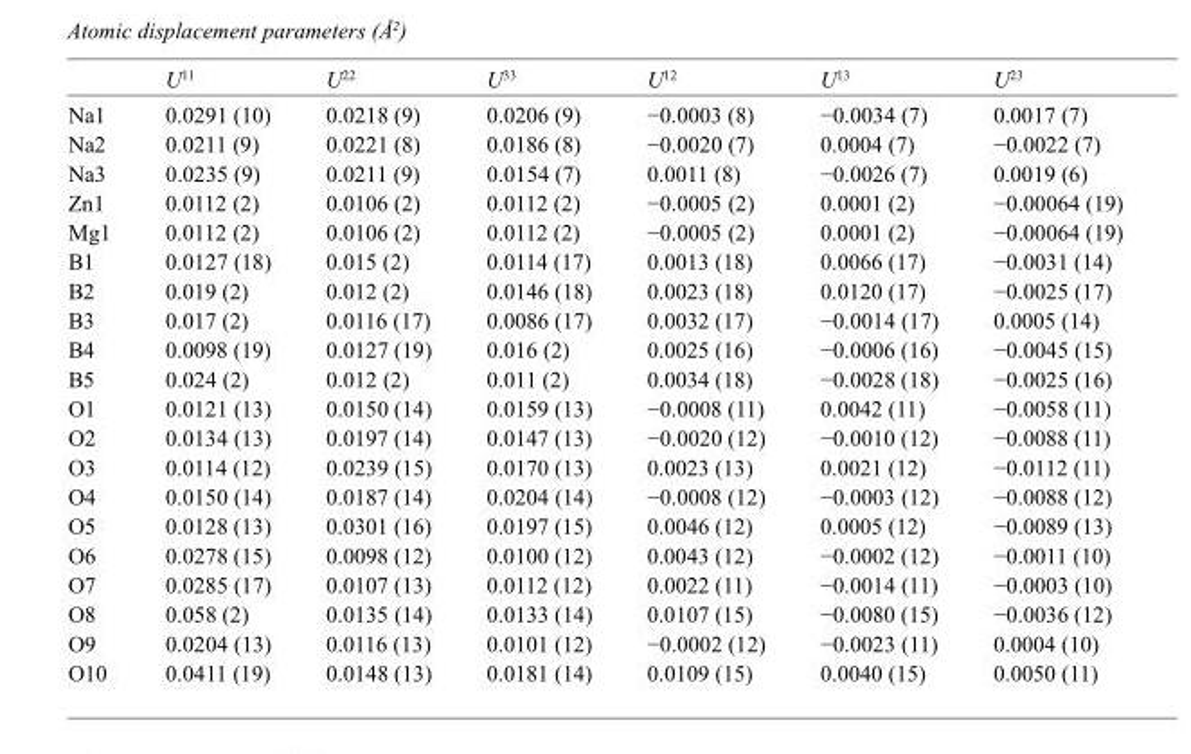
<table><thead><tr><td></td><td>U<sup>11</sup></td><td>U<sup>22</sup></td><td>U<sup>33</sup></td><td>U<sup>12</sup></td><td>U<sup>13</sup></td><td>U<sup>23</sup></td></tr></thead><tbody><tr><td>Na1</td><td>0.0291 (10)</td><td>0.0218 (9)</td><td>0.0206 (9)</td><td>−0.0003 (8)</td><td>−0.0034 (7)</td><td>0.0017 (7)</td></tr><tr><td>Na2</td><td>0.0211 (9)</td><td>0.0221 (8)</td><td>0.0186 (8)</td><td>−0.0020 (7)</td><td>0.0004 (7)</td><td>−0.0022 (7)</td></tr><tr><td>Na3</td><td>0.0235 (9)</td><td>0.0211 (9)</td><td>0.0154 (7)</td><td>0.0011 (8)</td><td>−0.0026 (7)</td><td>0.0019 (6)</td></tr><tr><td>Zn1</td><td>0.0112 (2)</td><td>0.0106 (2)</td><td>0.0112 (2)</td><td>−0.0005 (2)</td><td>0.0001 (2)</td><td>−0.00064 (19)</td></tr><tr><td>Mg1</td><td>0.0112 (2)</td><td>0.0106 (2)</td><td>0.0112 (2)</td><td>−0.0005 (2)</td><td>0.0001 (2)</td><td>−0.00064 (19)</td></tr><tr><td>B1</td><td>0.0127 (18)</td><td>0.015 (2)</td><td>0.0114 (17)</td><td>0.0013 (18)</td><td>0.0066 (17)</td><td>−0.0031 (14)</td></tr><tr><td>B2</td><td>0.019 (2)</td><td>0.012 (2)</td><td>0.0146 (18)</td><td>0.0023 (18)</td><td>0.0120 (17)</td><td>−0.0025 (17)</td></tr><tr><td>B3</td><td>0.017 (2)</td><td>0.0116 (17)</td><td>0.0086 (17)</td><td>0.0032 (17)</td><td>−0.0014 (17)</td><td>0.0005 (14)</td></tr><tr><td>B4</td><td>0.0098 (19)</td><td>0.0127 (19)</td><td>0.016 (2)</td><td>0.0025 (16)</td><td>−0.0006 (16)</td><td>−0.0045 (15)</td></tr><tr><td>B5</td><td>0.024 (2)</td><td>0.012 (2)</td><td>0.011 (2)</td><td>0.0034 (18)</td><td>−0.0028 (18)</td><td>−0.0025 (16)</td></tr><tr><td>O1</td><td>0.0121 (13)</td><td>0.0150 (14)</td><td>0.0159 (13)</td><td>−0.0008 (11)</td><td>0.0042 (11)</td><td>−0.0058 (11)</td></tr><tr><td>O2</td><td>0.0134 (13)</td><td>0.0197 (14)</td><td>0.0147 (13)</td><td>−0.0020 (12)</td><td>−0.0010 (12)</td><td>−0.0088 (11)</td></tr><tr><td>O3</td><td>0.0114 (12)</td><td>0.0239 (15)</td><td>0.0170 (13)</td><td>0.0023 (13)</td><td>0.0021 (12)</td><td>−0.0112 (11)</td></tr><tr><td>O4</td><td>0.0150 (14)</td><td>0.0187 (14)</td><td>0.0204 (14)</td><td>−0.0008 (12)</td><td>−0.0003 (12)</td><td>−0.0088 (12)</td></tr><tr><td>O5</td><td>0.0128 (13)</td><td>0.0301 (16)</td><td>0.0197 (15)</td><td>0.0046 (12)</td><td>0.0005 (12)</td><td>−0.0089 (13)</td></tr><tr><td>O6</td><td>0.0278 (15)</td><td>0.0098 (12)</td><td>0.0100 (12)</td><td>0.0043 (12)</td><td>−0.0002 (12)</td><td>−0.0011 (10)</td></tr><tr><td>O7</td><td>0.0285 (17)</td><td>0.0107 (13)</td><td>0.0112 (12)</td><td>0.0022 (11)</td><td>−0.0014 (11)</td><td>−0.0003 (10)</td></tr><tr><td>O8</td><td>0.058 (2)</td><td>0.0135 (14)</td><td>0.0133 (14)</td><td>0.0107 (15)</td><td>−0.0080 (15)</td><td>−0.0036 (12)</td></tr><tr><td>O9</td><td>0.0204 (13)</td><td>0.0116 (13)</td><td>0.0101 (12)</td><td>−0.0002 (12)</td><td>−0.0023 (11)</td><td>0.0004 (10)</td></tr><tr><td>O10</td><td>0.0411 (19)</td><td>0.0148 (13)</td><td>0.0181 (14)</td><td>0.0109 (15)</td><td>0.0040 (15)</td><td>0.0050 (11)</td></tr></tbody></table>